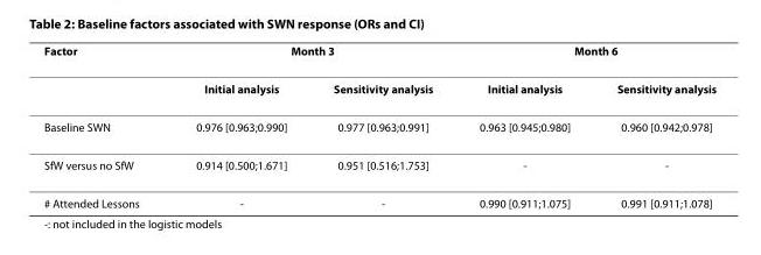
<table><thead><tr><td rowspan="2">Factor</td><td colspan="2">Month 3</td><td colspan="2">Month 6</td></tr><tr><td>Initial analysis</td><td>Sensitivity analysis</td><td>Initial analysis</td><td>Sensitivity analysis</td></tr></thead><tbody><tr><td>Baseline SWN</td><td>0.976 [0.963;0.990]</td><td>0.977 [0.963;0.991]</td><td>0.963 [0.945;0.980]</td><td>0.960 [0.942;0.978]</td></tr><tr><td>SfW versus no SfW</td><td>0.914 [0.500;1.671]</td><td>0.951 [0.516;1.753]</td><td>-</td><td>-</td></tr><tr><td># Attended Lessons</td><td>-</td><td>-</td><td>0.990 [0.911;1.075]</td><td>0.991 [0.911;1.078]</td></tr></tbody></table>